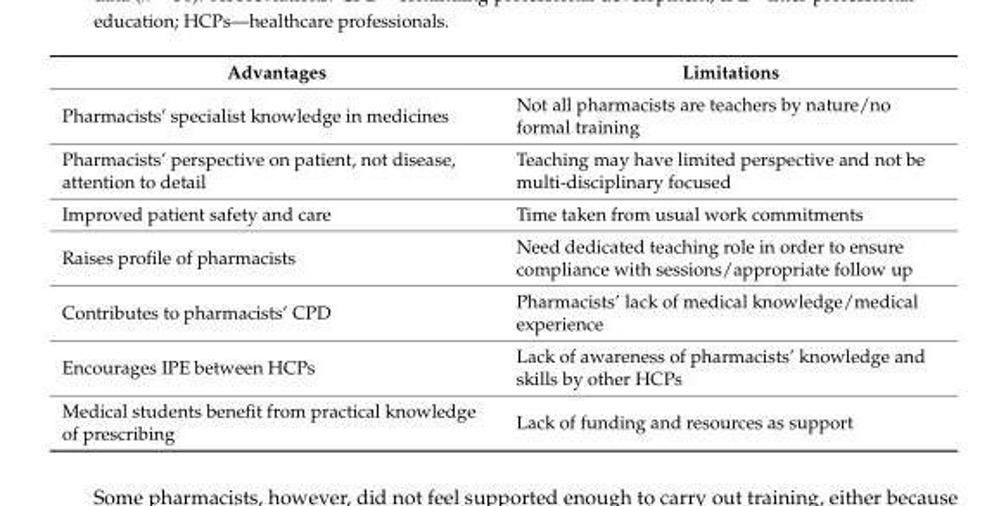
<table><thead><tr><td>Advantages</td><td>Limitations</td></tr></thead><tbody><tr><td>Pharmacists’ specialist knowledge in medicines</td><td>Not all pharmacists are teachers by nature/no formal training</td></tr><tr><td>Pharmacists’ perspective on patient, not disease, attention to detail</td><td>Teaching may have limited perspective and not be multi-disciplinary focused</td></tr><tr><td>Improved patient safety and care</td><td>Time taken from usual work commitments</td></tr><tr><td>Raises profile of pharmacists</td><td>Need dedicated teaching role in order to ensure compliance with sessions/appropriate follow up</td></tr><tr><td>Contributes to pharmacists’ CPD</td><td>Pharmacists’ lack of medical knowledge/medical experience</td></tr><tr><td>Encourages IPE between HCPs</td><td>Lack of awareness of pharmacists’ knowledge and skills by other HCPs</td></tr><tr><td>Medical students benefit from practical knowledge of prescribing</td><td>Lack of funding and resources as support</td></tr></tbody></table>